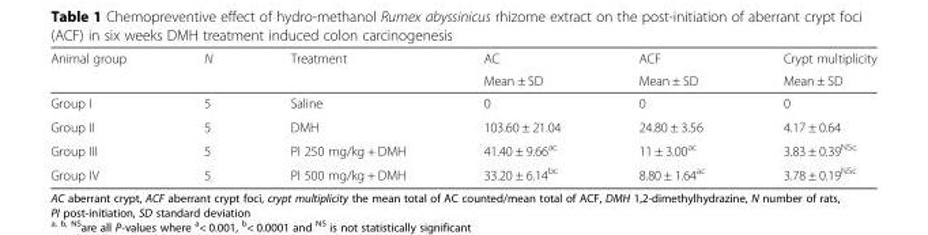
<table><thead><tr><td rowspan="2">Animal group</td><td rowspan="2">N</td><td rowspan="2">Treatment</td><td rowspan="2">AC Mean ± SD</td><td rowspan="2">ACF Mean ± SD</td><td rowspan="2">Crypt multiplicity Mean ± SD</td></tr><tr></tr></thead><tbody><tr><td>Group I</td><td>5</td><td>Saline</td><td>0</td><td>0</td><td>0</td></tr><tr><td>Group II</td><td>5</td><td>DMH</td><td>103.60 ± 21.04</td><td>24.80 ± 3.56</td><td>4.17 ± 0.64</td></tr><tr><td>Group III</td><td>5</td><td>PI 250 mg/kg + DMH</td><td>41.40 ± 9.66<sup>ac</sup></td><td>11 ± 3.00<sup>ac</sup></td><td>3.83 ± 0.39<sup>NSc</sup></td></tr><tr><td>Group IV</td><td>5</td><td>PI 500 mg/kg + DMH</td><td>33.20 ± 6.14<sup>bc</sup></td><td>8.80 ± 1.64<sup>ac</sup></td><td>3.78 ± 0.19<sup>NSc</sup></td></tr></tbody></table>